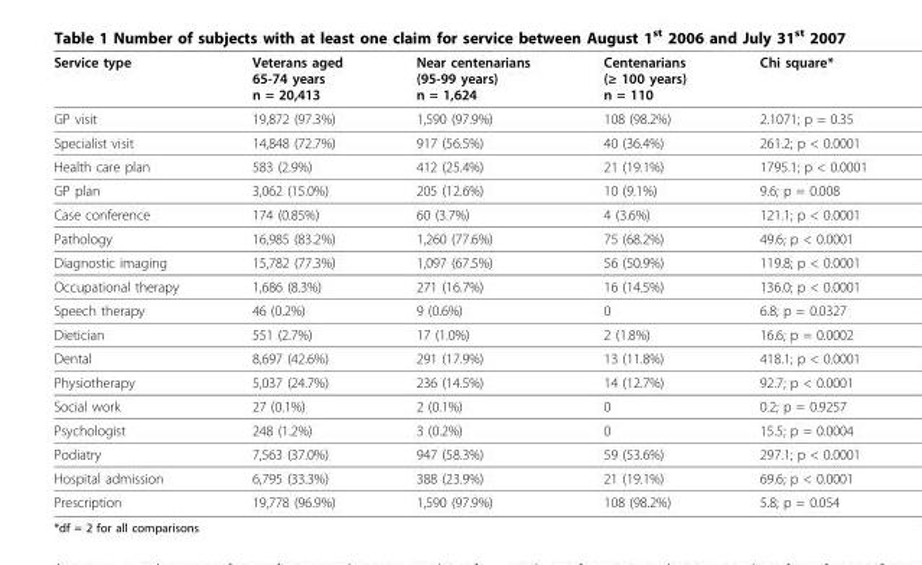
<table><thead><tr><td>Service type</td><td>Veterans aged 65-74 years n = 20,413</td><td>Near centenarians (95-99 years) n = 1,624</td><td>Centenarians (≥ 100 years) n = 110</td><td>Chi square*</td></tr></thead><tbody><tr><td>GP visit</td><td>19,872 (97.3%)</td><td>1,590 (97.9%)</td><td>108 (98.2%)</td><td>2.1071; p = 0.35</td></tr><tr><td>Specialist visit</td><td>14,848 (72.7%)</td><td>917 (56.5%)</td><td>40 (36.4%)</td><td>261.2; p &lt; 0.0001</td></tr><tr><td>Health care plan</td><td>583 (2.9%)</td><td>412 (25.4%)</td><td>21 (19.1%)</td><td>1795.1; p &lt; 0.0001</td></tr><tr><td>GP plan</td><td>3,062 (15.0%)</td><td>205 (12.6%)</td><td>10 (9.1%)</td><td>9.6; p = 0.008</td></tr><tr><td>Case conference</td><td>174 (0.85%)</td><td>60 (3.7%)</td><td>4 (3.6%)</td><td>121.1; p &lt; 0.0001</td></tr><tr><td>Pathology</td><td>16,985 (83.2%)</td><td>1,260 (77.6%)</td><td>75 (68.2%)</td><td>49.6; p &lt; 0.0001</td></tr><tr><td>Diagnostic imaging</td><td>15,782 (77.3%)</td><td>1,097 (67.5%)</td><td>56 (50.9%)</td><td>119.8; p &lt; 0.0001</td></tr><tr><td>Occupational therapy</td><td>1,686 (8.3%)</td><td>271 (16.7%)</td><td>16 (14.5%)</td><td>136.0; p &lt; 0.0001</td></tr><tr><td>Speech therapy</td><td>46 (0.2%)</td><td>9 (0.6%)</td><td>0</td><td>6.8; p = 0.0327</td></tr><tr><td>Dietician</td><td>551 (2.7%)</td><td>17 (1.0%)</td><td>2 (1.8%)</td><td>16.6; p = 0.0002</td></tr><tr><td>Dental</td><td>8,697 (42.6%)</td><td>291 (17.9%)</td><td>13 (11.8%)</td><td>418.1; p &lt; 0.0001</td></tr><tr><td>Physiotherapy</td><td>5,037 (24.7%)</td><td>236 (14.5%)</td><td>14 (12.7%)</td><td>92.7; p &lt; 0.0001</td></tr><tr><td>Social work</td><td>27 (0.1%)</td><td>2 (0.1%)</td><td>0</td><td>0.2; p = 0.9257</td></tr><tr><td>Psychologist</td><td>248 (1.2%)</td><td>3 (0.2%)</td><td>0</td><td>15.5; p = 0.0004</td></tr><tr><td>Podiatry</td><td>7,563 (37.0%)</td><td>947 (58.3%)</td><td>59 (53.6%)</td><td>297.1; p &lt; 0.0001</td></tr><tr><td>Hospital admission</td><td>6,795 (33.3%)</td><td>388 (23.9%)</td><td>21 (19.1%)</td><td>69.6; p &lt; 0.0001</td></tr><tr><td>Prescription</td><td>19,778 (96.9%)</td><td>1,590 (97.9%)</td><td>108 (98.2%)</td><td>5.8; p = 0.054</td></tr></tbody></table>